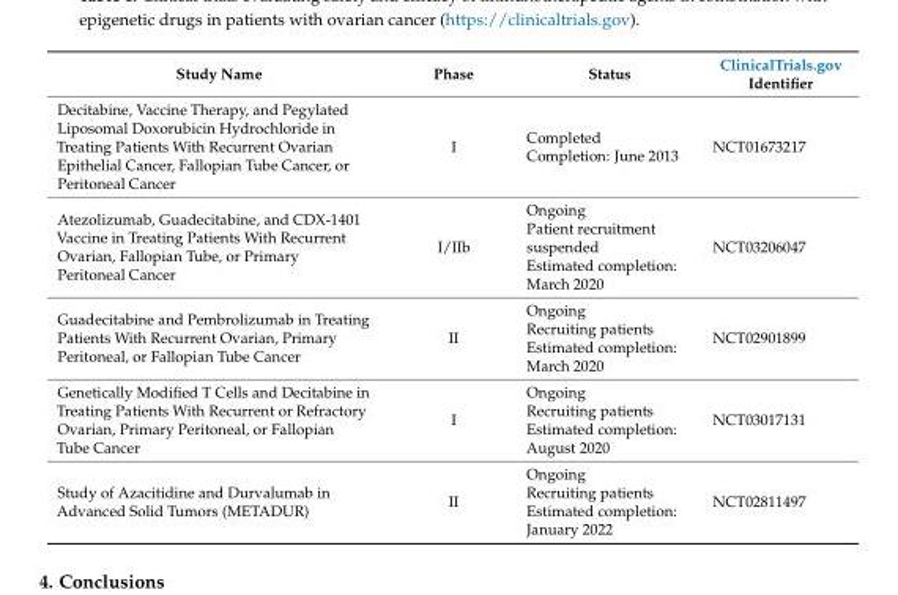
<table><thead><tr><td>Study Name</td><td>Phase</td><td>Status</td><td>ClinicalTrials.gov Identifier</td></tr></thead><tbody><tr><td>Decitabine, Vaccine Therapy, and Pegylated Liposomal Doxorubicin Hydrochloride in Treating Patients With Recurrent Ovarian Epithelial Cancer, Fallopian Tube Cancer, or Peritoneal Cancer</td><td>I</td><td>Completed Completion: June 2013</td><td>NCT01673217</td></tr><tr><td>Atezolizumab, Guadecitabine, and CDX-1401 Vaccine in Treating Patients With Recurrent Ovarian, Fallopian Tube, or Primary Peritoneal Cancer</td><td>I/IIb</td><td>Ongoing Patient recruitment suspended Estimated completion: March 2020</td><td>NCT03206047</td></tr><tr><td>Guadecitabine and Pembrolizumab in Treating Patients With Recurrent Ovarian, Primary Peritoneal, or Fallopian Tube Cancer</td><td>II</td><td>Ongoing Recruiting patients Estimated completion: March 2020</td><td>NCT02901899</td></tr><tr><td>Genetically Modified T Cells and Decitabine in Treating Patients With Recurrent or Refractory Ovarian, Primary Peritoneal, or Fallopian Tube Cancer</td><td>I</td><td>Ongoing Recruiting patients Estimated completion: August 2020</td><td>NCT03017131</td></tr><tr><td>Study of Azacitidine and Durvalumab in Advanced Solid Tumors (METADUR)</td><td>II</td><td>Ongoing Recruiting patients Estimated completion: January 2022</td><td>NCT02811497</td></tr></tbody></table>